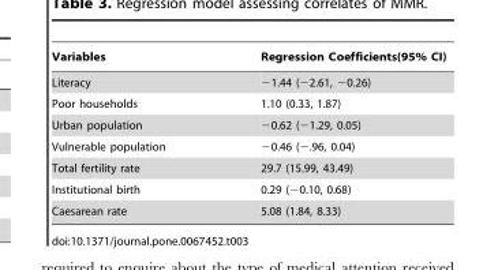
<table><thead><tr><td>Variables</td><td>Regression Coefficients(95% CI)</td></tr></thead><tbody><tr><td>Literacy</td><td>−1.44 (−2.61, −0.26)</td></tr><tr><td>Poor households</td><td>1.10 (0.33, 1.87)</td></tr><tr><td>Urban population</td><td>−0.62 (−1.29, 0.05)</td></tr><tr><td>Vulnerable population</td><td>−0.46 (−.96, 0.04)</td></tr><tr><td>Total fertility rate</td><td>29.7 (15.99, 43.49)</td></tr><tr><td>Institutional birth</td><td>0.29 (−0.10, 0.68)</td></tr><tr><td>Caesarean rate</td><td>5.08 (1.84, 8.33)</td></tr></tbody></table>